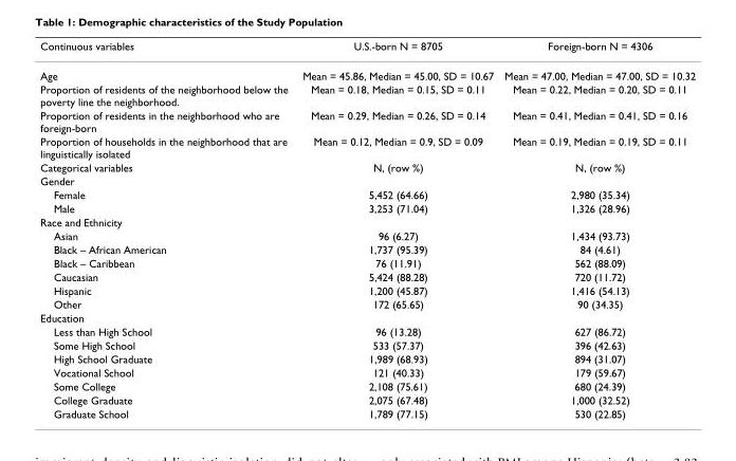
<table><thead><tr><td>Continuous variables</td><td>U.S.-born N = 8705</td><td>Foreign-born N = 4306</td></tr></thead><tbody><tr><td>Age</td><td>Mean = 45.86, Median = 45.00, SD = 10.67</td><td>Mean = 47.00, Median = 47.00, SD = 10.32</td></tr><tr><td>Proportion of residents of the neighborhood below the poverty line the neighborhood.</td><td>Mean = 0.18, Median = 0.15, SD = 0.11</td><td>Mean = 0.22, Median = 0.20, SD = 0.11</td></tr><tr><td>Proportion of residents in the neighborhood who are foreign-born</td><td>Mean = 0.29, Median = 0.26, SD = 0.14</td><td>Mean = 0.41, Median = 0.41, SD = 0.16</td></tr><tr><td>Proportion of households in the neighborhood that are linguistically isolated</td><td>Mean = 0.12, Median = 0.9, SD = 0.09</td><td>Mean = 0.19, Median = 0.19, SD = 0.11</td></tr><tr><td>Categorical variables</td><td>N, (row %)</td><td>N, (row %)</td></tr><tr><td colspan="3">Gender</td></tr><tr><td>Female</td><td>5,452 (64.66)</td><td>2,980 (35.34)</td></tr><tr><td>Male</td><td>3,253 (71.04)</td><td>1,326 (28.96)</td></tr><tr><td colspan="3">Race and Ethnicity</td></tr><tr><td>Asian</td><td>96 (6.27)</td><td>1,434 (93.73)</td></tr><tr><td>Black – African American</td><td>1,737 (95.39)</td><td>84 (4.61)</td></tr><tr><td>Black – Caribbean</td><td>76 (11.91)</td><td>562 (88.09)</td></tr><tr><td>Caucasian</td><td>5,424 (88.28)</td><td>720 (11.72)</td></tr><tr><td>Hispanic</td><td>1,200 (45.87)</td><td>1,416 (54.13)</td></tr><tr><td>Other</td><td>172 (65.65)</td><td>90 (34.35)</td></tr><tr><td colspan="3">Education</td></tr><tr><td>Less than High School</td><td>96 (13.28)</td><td>627 (86.72)</td></tr><tr><td>Some High School</td><td>533 (57.37)</td><td>396 (42.63)</td></tr><tr><td>High School Graduate</td><td>1,989 (68.93)</td><td>894 (31.07)</td></tr><tr><td>Vocational School</td><td>121 (40.33)</td><td>179 (59.67)</td></tr><tr><td>Some College</td><td>2,108 (75.61)</td><td>680 (24.39)</td></tr><tr><td>College Graduate</td><td>2,075 (67.48)</td><td>1,000 (32.52)</td></tr><tr><td>Graduate School</td><td>1,789 (77.15)</td><td>530 (22.85)</td></tr></tbody></table>